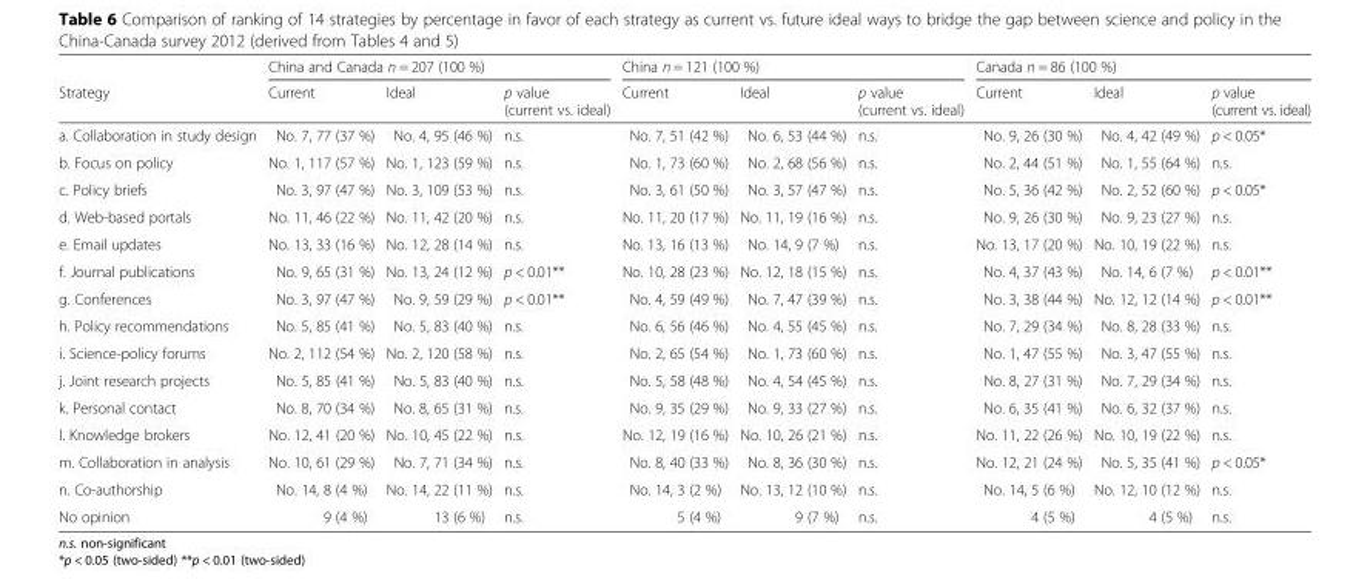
<table><thead><tr><td rowspan="2">Strategy</td><td colspan="3">China and Canada n = 207 (100 %)</td><td colspan="3">China n = 121 (100 %)</td><td colspan="3">Canada n = 86 (100 %)</td></tr><tr><td>Current</td><td>Ideal</td><td>p value (current vs. ideal)</td><td>Current</td><td>Ideal</td><td>p value (current vs. ideal)</td><td>Current</td><td>Ideal</td><td>p value (current vs. ideal)</td></tr></thead><tbody><tr><td>a. Collaboration in study design</td><td>No. 7, 77 (37 %)</td><td>No. 4, 95 (46 %)</td><td>n.s.</td><td>No. 7, 51 (42 %)</td><td>No. 6, 53 (44 %)</td><td>n.s.</td><td>No. 9, 26 (30 %)</td><td>No. 4, 42 (49 %)</td><td>p &lt; 0.05*</td></tr><tr><td>b. Focus on policy</td><td>No. 1, 117 (57 %)</td><td>No. 1, 123 (59 %)</td><td>n.s.</td><td>No. 1, 73 (60 %)</td><td>No. 2, 68 (56 %)</td><td>n.s.</td><td>No. 2, 44 (51 %)</td><td>No. 1, 55 (64 %)</td><td>n.s.</td></tr><tr><td>c. Policy briefs</td><td>No. 3, 97 (47 %)</td><td>No. 3, 109 (53 %)</td><td>n.s.</td><td>No. 3, 61 (50 %)</td><td>No. 3, 57 (47 %)</td><td>n.s.</td><td>No. 5, 36 (42 %)</td><td>No. 2, 52 (60 %)</td><td>p &lt; 0.05*</td></tr><tr><td>d. Web-based portals</td><td>No. 11, 46 (22 %)</td><td>No. 11, 42 (20 %)</td><td>n.s.</td><td>No. 11, 20 (17 %)</td><td>No. 11, 19 (16 %)</td><td>n.s.</td><td>No. 9, 26 (30 %)</td><td>No. 9, 23 (27 %)</td><td>n.s.</td></tr><tr><td>e. Email updates</td><td>No. 13, 33 (16 %)</td><td>No. 12, 28 (14 %)</td><td>n.s.</td><td>No. 13, 16 (13 %)</td><td>No. 14, 9 (7 %)</td><td>n.s.</td><td>No. 13, 17 (20 %)</td><td>No. 10, 19 (22 %)</td><td>n.s.</td></tr><tr><td>f. Journal publications</td><td>No. 9, 65 (31 %)</td><td>No. 13, 24 (12 %)</td><td>p &lt; 0.01**</td><td>No. 10, 28 (23 %)</td><td>No. 12, 18 (15 %)</td><td>n.s.</td><td>No. 4, 37 (43 %)</td><td>No. 14, 6 (7 %)</td><td>p &lt; 0.01**</td></tr><tr><td>g. Conferences</td><td>No. 3, 97 (47 %)</td><td>No. 9, 59 (29 %)</td><td>p &lt; 0.01**</td><td>No. 4, 59 (49 %)</td><td>No. 7, 47 (39 %)</td><td>n.s.</td><td>No. 3, 38 (44 %)</td><td>No. 12, 12 (14 %)</td><td>p &lt; 0.01**</td></tr><tr><td>h. Policy recommendations</td><td>No. 5, 85 (41 %)</td><td>No. 5, 83 (40 %)</td><td>n.s.</td><td>No. 6, 56 (46 %)</td><td>No. 4, 55 (45 %)</td><td>n.s.</td><td>No. 7, 29 (34 %)</td><td>No. 8, 28 (33 %)</td><td>n.s.</td></tr><tr><td>i. Science-policy forums</td><td>No. 2, 112 (54 %)</td><td>No. 2, 120 (58 %)</td><td>n.s.</td><td>No. 2, 65 (54 %)</td><td>No. 1, 73 (60 %)</td><td>n.s.</td><td>No. 1, 47 (55 %)</td><td>No. 3, 47 (55 %)</td><td>n.s.</td></tr><tr><td>j. Joint research projects</td><td>No. 5, 85 (41 %)</td><td>No. 5, 83 (40 %)</td><td>n.s.</td><td>No. 5, 58 (48 %)</td><td>No. 4, 54 (45 %)</td><td>n.s.</td><td>No. 8, 27 (31 %)</td><td>No. 7, 29 (34 %)</td><td>n.s.</td></tr><tr><td>k. Personal contact</td><td>No. 8, 70 (34 %)</td><td>No. 8, 65 (31 %)</td><td>n.s.</td><td>No. 9, 35 (29 %)</td><td>No. 9, 33 (27 %)</td><td>n.s.</td><td>No. 6, 35 (41 %)</td><td>No. 6, 32 (37 %)</td><td>n.s.</td></tr><tr><td>l. Knowledge brokers</td><td>No. 12, 41 (20 %)</td><td>No. 10, 45 (22 %)</td><td>n.s.</td><td>No. 12, 19 (16 %)</td><td>No. 10, 26 (21 %)</td><td>n.s.</td><td>No. 11, 22 (26 %)</td><td>No. 10, 19 (22 %)</td><td>n.s.</td></tr><tr><td>m. Collaboration in analysis</td><td>No. 10, 61 (29 %)</td><td>No. 7, 71 (34 %)</td><td>n.s.</td><td>No. 8, 40 (33 %)</td><td>No. 8, 36 (30 %)</td><td>n.s.</td><td>No. 12, 21 (24 %)</td><td>No. 5, 35 (41 %)</td><td>p &lt; 0.05*</td></tr><tr><td>n. Co-authorship</td><td>No. 14, 8 (4 %)</td><td>No. 14, 22 (11 %)</td><td>n.s.</td><td>No. 14, 3 (2 %)</td><td>No. 13, 12 (10 %)</td><td>n.s.</td><td>No. 14, 5 (6 %)</td><td>No. 12, 10 (12 %)</td><td>n.s.</td></tr><tr><td>No opinion</td><td>9 (4 %)</td><td>13 (6 %)</td><td>n.s.</td><td>5 (4 %)</td><td>9 (7 %)</td><td>n.s.</td><td>4 (5 %)</td><td>4 (5 %)</td><td>n.s.</td></tr></tbody></table>